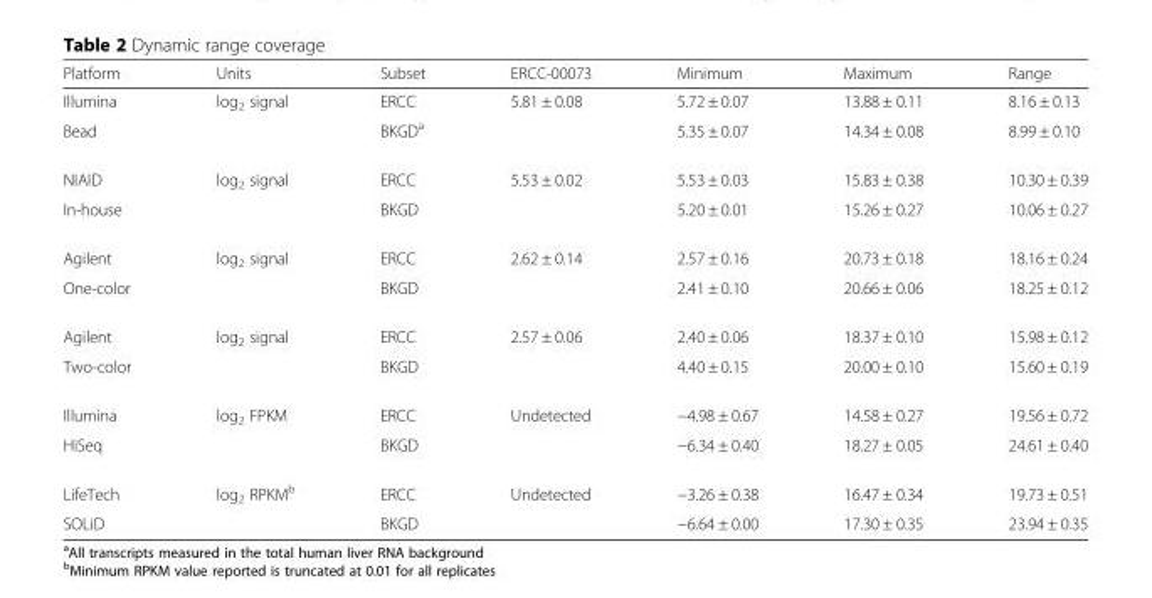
<table><thead><tr><td>Platform</td><td>Units</td><td>Subset</td><td>ERCC-00073</td><td>Minimum</td><td>Maximum</td><td>Range</td></tr></thead><tbody><tr><td>Illumina</td><td rowspan="2">log<sub>2</sub> signal</td><td>ERCC</td><td>5.81 ± 0.08</td><td>5.72 ± 0.07</td><td>13.88 ± 0.11</td><td>8.16 ± 0.13</td></tr><tr><td>Bead</td><td colspan="2">BKGD<sup>a</sup></td><td>5.35 ± 0.07</td><td>14.34 ± 0.08</td><td>8.99 ± 0.10</td></tr><tr><td>NIAID</td><td rowspan="2">log<sub>2</sub> signal</td><td>ERCC</td><td>5.53 ± 0.02</td><td>5.53 ± 0.03</td><td>15.83 ± 0.38</td><td>10.30 ± 0.39</td></tr><tr><td>In-house</td><td colspan="2">BKGD</td><td>5.20 ± 0.01</td><td>15.26 ± 0.27</td><td>10.06 ± 0.27</td></tr><tr><td>Agilent</td><td rowspan="2">log<sub>2</sub> signal</td><td>ERCC</td><td>2.62 ± 0.14</td><td>2.57 ± 0.16</td><td>20.73 ± 0.18</td><td>18.16 ± 0.24</td></tr><tr><td>One-color</td><td colspan="2">BKGD</td><td>2.41 ± 0.10</td><td>20.66 ± 0.06</td><td>18.25 ± 0.12</td></tr><tr><td>Agilent</td><td rowspan="2">log<sub>2</sub> signal</td><td>ERCC</td><td>2.57 ± 0.06</td><td>2.40 ± 0.06</td><td>18.37 ± 0.10</td><td>15.98 ± 0.12</td></tr><tr><td>Two-color</td><td colspan="2">BKGD</td><td>4.40 ± 0.15</td><td>20.00 ± 0.10</td><td>15.60 ± 0.19</td></tr><tr><td>Illumina</td><td rowspan="2">log<sub>2</sub> FPKM</td><td>ERCC</td><td>Undetected</td><td>−4.98 ± 0.67</td><td>14.58 ± 0.27</td><td>19.56 ± 0.72</td></tr><tr><td>HiSeq</td><td colspan="2">BKGD</td><td>−6.34 ± 0.40</td><td>18.27 ± 0.05</td><td>24.61 ± 0.40</td></tr><tr><td>LifeTech</td><td rowspan="2">log<sub>2</sub> RPKM<sup>b</sup></td><td>ERCC</td><td>Undetected</td><td>−3.26 ± 0.38</td><td>16.47 ± 0.34</td><td>19.73 ± 0.51</td></tr><tr><td>SOLiD</td><td colspan="2">BKGD</td><td>−6.64 ± 0.00</td><td>17.30 ± 0.35</td><td>23.94 ± 0.35</td></tr></tbody></table>